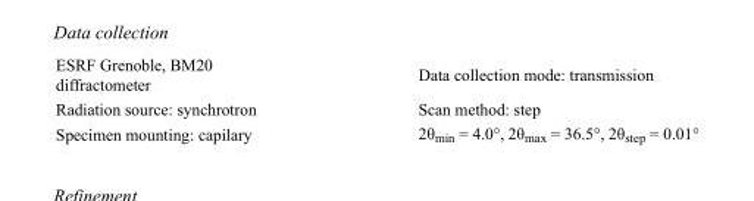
<table><tbody><tr><td>ESRF Grenoble, BM20 diffractometer</td><td>Data collection mode: transmission</td></tr><tr><td>Radiation source: synchrotron</td><td>Scan method: step</td></tr><tr><td>Specimen mounting: capilary</td><td>2θ<sub>min</sub> = 4.0°, 2θ<sub>max</sub> = 36.5°, 2θ<sub>step</sub> = 0.01°</td></tr></tbody></table>